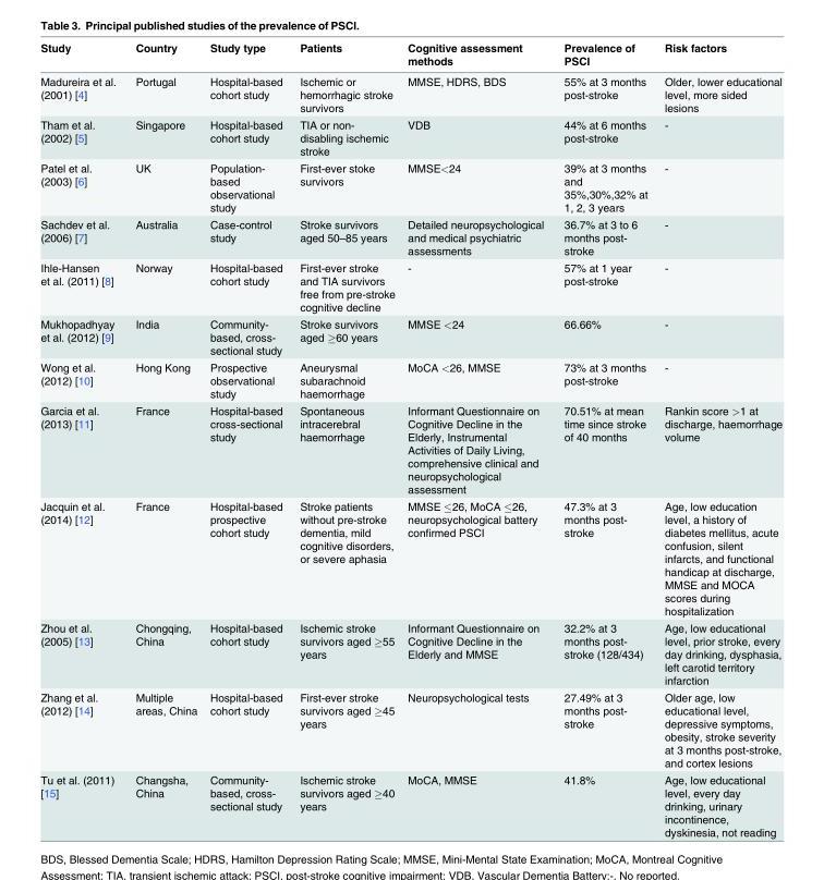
<table><thead><tr><td>Study</td><td>Country</td><td>Study type</td><td>Patients</td><td>Cognitive assessment methods</td><td>Prevalence of PSCI</td><td>Risk factors</td></tr></thead><tbody><tr><td>Madureira et al. (2001) [4]</td><td>Portugal</td><td>Hospital-based cohort study</td><td>Ischemic or hemorrhagic stroke survivors</td><td>MMSE, HDRS, BDS</td><td>55% at 3 months post-stroke</td><td>Older, lower educational level, more sided lesions</td></tr><tr><td>Tham et al. (2002) [5]</td><td>Singapore</td><td>Hospital-based cohort study</td><td>TIA or non- disabling ischemic stroke</td><td>VDB</td><td>44% at 6 months post-stroke</td><td>-</td></tr><tr><td>Patel et al. (2003) [6]</td><td>UK</td><td>Population- based observational study</td><td>First-ever stoke survivors</td><td>MMSE&lt;24</td><td>39% at 3 months and 35%,30%,32% at 1, 2, 3 years</td><td>-</td></tr><tr><td>Sachdev et al. (2006) [7]</td><td>Australia</td><td>Case-control study</td><td>Stroke survivors aged 50–85 years</td><td>Detailed neuropsychological and medical psychiatric assessments</td><td>36.7% at 3 to 6 months post- stroke</td><td>-</td></tr><tr><td>Ihle-Hansen et al. (2011) [8]</td><td>Norway</td><td>Hospital-based cohort study</td><td>First-ever stroke and TIA survivors free from pre-stroke cognitive decline</td><td>-</td><td>57% at 1 year post-stroke</td><td>-</td></tr><tr><td>Mukhopadhyay et al. (2012) [9]</td><td>India</td><td>Community- based, cross- sectional study</td><td>Stroke survivors aged ≥60 years</td><td>MMSE &lt;24</td><td>66.66%</td><td>-</td></tr><tr><td>Wong et al. (2012) [10]</td><td>Hong Kong</td><td>Prospective observational study</td><td>Aneurysmal subarachnoid haemorrhage</td><td>MoCA &lt;26, MMSE</td><td>73% at 3 months post-stroke</td><td>-</td></tr><tr><td>Garcia et al. (2013) [11]</td><td>France</td><td>Hospital-based cross-sectional study</td><td>Spontaneous intracerebral haemorrhage</td><td>Informant Questionnaire on Cognitive Decline in the Elderly, Instrumental Activities of Daily Living, comprehensive clinical and neuropsychological assessment</td><td>70.51% at mean time since stroke of 40 months</td><td>Rankin score &gt;1 at discharge, haemorrhage volume</td></tr><tr><td>Jacquin et al. (2014) [12]</td><td>France</td><td>Hospital-based prospective cohort study</td><td>Stroke patients without pre-stroke dementia, mild cognitive disorders, or severe aphasia</td><td>MMSE ≤26, MoCA ≤26, neuropsychological battery confirmed PSCI</td><td>47.3% at 3 months post- stroke</td><td>Age, low education level, a history of diabetes mellitus, acute confusion, silent infarcts, and functional handicap at discharge, MMSE and MOCA scores during hospitalization</td></tr><tr><td>Zhou et al. (2005) [13]</td><td>Chongqing, China</td><td>Hospital-based cohort study</td><td>Ischemic stroke survivors aged ≥55 years</td><td>Informant Questionnaire on Cognitive Decline in the Elderly and MMSE</td><td>32.2% at 3 months post- stroke (128/434)</td><td>Age, low educational level, prior stroke, every day drinking, dysphasia, left carotid territory infarction</td></tr><tr><td>Zhang et al. (2012) [14]</td><td>Multiple areas, China</td><td>Hospital-based cohort study</td><td>First-ever stroke survivors aged ≥45 years</td><td>Neuropsychological tests</td><td>27.49% at 3 months post- stroke</td><td>Older age, low educational level, depressive symptoms, obesity, stroke severity at 3 months post-stroke, and cortex lesions</td></tr><tr><td>Tu et al. (2011) [15]</td><td>Changsha, China</td><td>Community- based, cross- sectional study</td><td>Ischemic stroke survivors aged ≥40 years</td><td>MoCA, MMSE</td><td>41.8%</td><td>Age, low educational level, every day drinking, urinary incontinence, dyskinesia, not reading</td></tr></tbody></table>